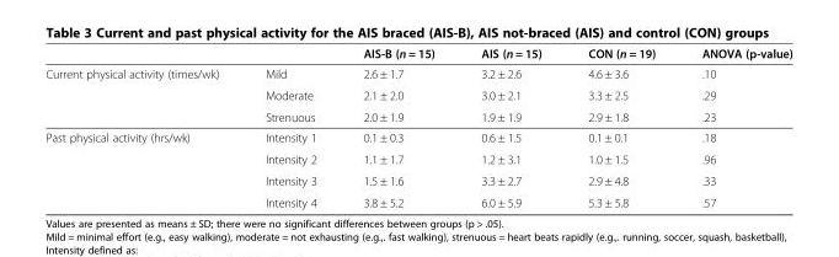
<table><thead><tr><td></td><td></td><td>AIS-B (n = 15)</td><td>AIS (n = 15)</td><td>CON (n = 19)</td><td>ANOVA (p-value)</td></tr></thead><tbody><tr><td rowspan="3">Current physical activity (times/wk)</td><td>Mild</td><td>2.6 ± 1.7</td><td>3.2 ± 2.6</td><td>4.6 ± 3.6</td><td>.10</td></tr><tr><td>Moderate</td><td>2.1 ± 2.0</td><td>3.0 ± 2.1</td><td>3.3 ± 2.5</td><td>.29</td></tr><tr><td>Strenuous</td><td>2.0 ± 1.9</td><td>1.9 ± 1.9</td><td>2.9 ± 1.8</td><td>.23</td></tr><tr><td rowspan="4">Past physical activity (hrs/wk)</td><td>Intensity 1</td><td>0.1 ± 0.3</td><td>0.6 ± 1.5</td><td>0.1 ± 0.1</td><td>.18</td></tr><tr><td>Intensity 2</td><td>1.1 ± 1.7</td><td>1.2 ± 3.1</td><td>1.0 ± 1.5</td><td>.96</td></tr><tr><td>Intensity 3</td><td>1.5 ± 1.6</td><td>3.3 ± 2.7</td><td>2.9 ± 4.8</td><td>.33</td></tr><tr><td>Intensity 4</td><td>3.8 ± 5.2</td><td>6.0 ± 5.9</td><td>5.3 ± 5.8</td><td>.57</td></tr></tbody></table>